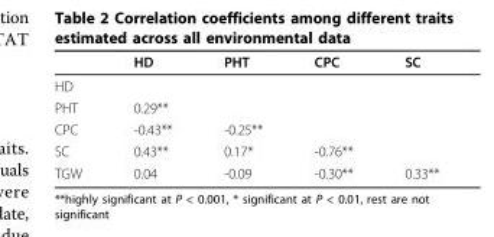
<table><thead><tr><td></td><td>HD</td><td>PHT</td><td>CPC</td><td>SC</td></tr></thead><tbody><tr><td colspan="5">HD</td></tr><tr><td>PHT</td><td>0.29**</td><td></td><td></td><td></td></tr><tr><td>CPC</td><td>-0.43**</td><td>-0.25**</td><td></td><td></td></tr><tr><td>SC</td><td>0.43**</td><td>0.17*</td><td>-0.76**</td><td></td></tr><tr><td>TGW</td><td>0.04</td><td>-0.09</td><td>-0.30**</td><td>0.33**</td></tr></tbody></table>